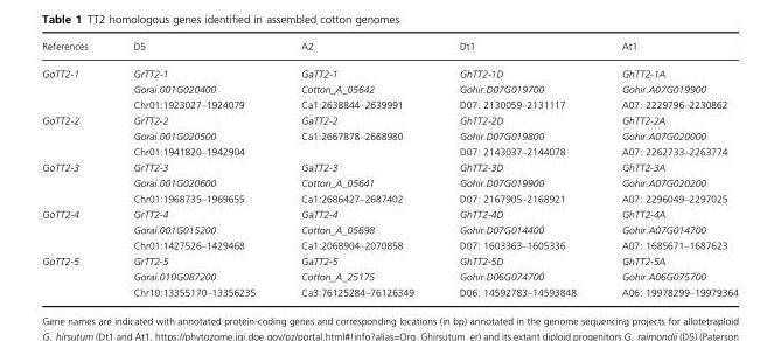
<table><thead><tr><td>References</td><td>D5</td><td>A2</td><td>Dt1</td><td>At1</td></tr></thead><tbody><tr><td>GoTT2-1</td><td>GrTT2-1 Gorai.001G020400 Chr01:1923027–1924079</td><td>GaTT2-1 Cotton_A_05642 Ca1:2638844–2639991</td><td>GhTT2-1D Gohir.D07G019700 D07: 2130059–2131117</td><td>GhTT2-1A Gohir.A07G019900 A07: 2229796–2230862</td></tr><tr><td>GoTT2-2</td><td>GrTT2-2 Gorai.001G020500 Chr01:1941820–1942904</td><td>GaTT2-2 Ca1:2667878–2668980</td><td>GhTT2-2D Gohir.D07G019800 D07: 2143037–2144078</td><td>GhTT2-2A Gohir.A07G020000 A07: 2262733–2263774</td></tr><tr><td>GoTT2-3</td><td>GrTT2-3 Gorai.001G020600 Chr01:1968735–1969655</td><td>GaTT2-3 Cotton_A_05641 Ca1:2686427–2687402</td><td>GhTT2-3D Gohir.D07G019900 D07: 2167905–2168921</td><td>GhTT2-3A Gohir.A07G020200 A07: 2296049–2297025</td></tr><tr><td>GoTT2-4</td><td>GrTT2-4 Gorai.001G015200 Chr01:1427526–1429468</td><td>GaTT2-4 Cotton_A_05698 Ca1:2068904–2070858</td><td>GhTT2-4D Gohir.D07G014400 D07: 1603363–1605336</td><td>GhTT2-4A Gohir.A07G014700 A07: 1685671–1687623</td></tr><tr><td>GoTT2-5</td><td>GrTT2-5 Gorai.010G087200 Chr10:13355170–13356235</td><td>GaTT2-5 Cotton_A_25175 Ca3:76125284–76126349</td><td>GhTT2-5D Gohir.D06G074700 D06: 14592783–14593848</td><td>GhTT2-5A Gohir.A06G075700 A06: 19978299–19979364</td></tr></tbody></table>